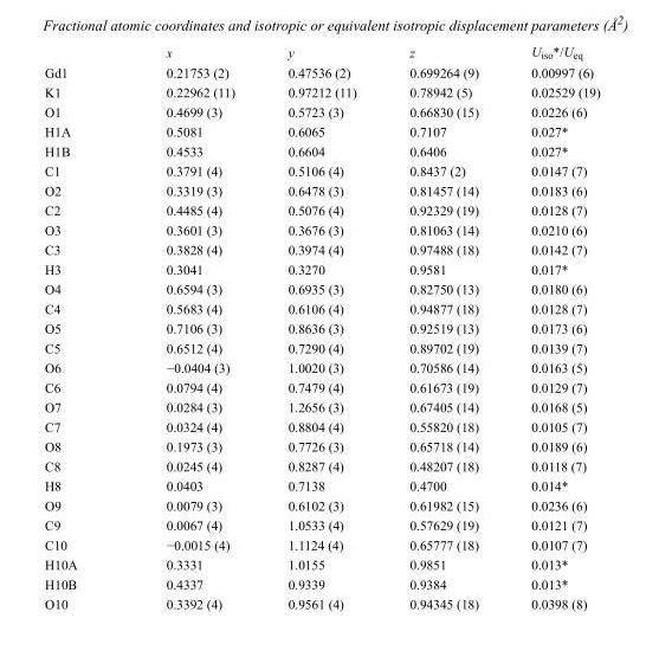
<table><thead><tr><td></td><td>x</td><td>y</td><td>z</td><td>U<sub>iso</sub>*/U<sub>eq</sub></td></tr></thead><tbody><tr><td>Gd1</td><td>0.21753 (2)</td><td>0.47536 (2)</td><td>0.699264 (9)</td><td>0.00997 (6)</td></tr><tr><td>K1</td><td>0.22962 (11)</td><td>0.97212 (11)</td><td>0.78942 (5)</td><td>0.02529 (19)</td></tr><tr><td>O1</td><td>0.4699 (3)</td><td>0.5723 (3)</td><td>0.66830 (15)</td><td>0.0226 (6)</td></tr><tr><td>H1A</td><td>0.5081</td><td>0.6065</td><td>0.7107</td><td>0.027*</td></tr><tr><td>H1B</td><td>0.4533</td><td>0.6604</td><td>0.6406</td><td>0.027*</td></tr><tr><td>C1</td><td>0.3791 (4)</td><td>0.5106 (4)</td><td>0.8437 (2)</td><td>0.0147 (7)</td></tr><tr><td>O2</td><td>0.3319 (3)</td><td>0.6478 (3)</td><td>0.81457 (14)</td><td>0.0183 (6)</td></tr><tr><td>C2</td><td>0.4485 (4)</td><td>0.5076 (4)</td><td>0.92329 (19)</td><td>0.0128 (7)</td></tr><tr><td>O3</td><td>0.3601 (3)</td><td>0.3676 (3)</td><td>0.81063 (14)</td><td>0.0210 (6)</td></tr><tr><td>C3</td><td>0.3828 (4)</td><td>0.3974 (4)</td><td>0.97488 (18)</td><td>0.0142 (7)</td></tr><tr><td>H3</td><td>0.3041</td><td>0.3270</td><td>0.9581</td><td>0.017*</td></tr><tr><td>O4</td><td>0.6594 (3)</td><td>0.6935 (3)</td><td>0.82750 (13)</td><td>0.0180 (6)</td></tr><tr><td>C4</td><td>0.5683 (4)</td><td>0.6106 (4)</td><td>0.94877 (18)</td><td>0.0128 (7)</td></tr><tr><td>O5</td><td>0.7106 (3)</td><td>0.8636 (3)</td><td>0.92519 (13)</td><td>0.0173 (6)</td></tr><tr><td>C5</td><td>0.6512 (4)</td><td>0.7290 (4)</td><td>0.89702 (19)</td><td>0.0139 (7)</td></tr><tr><td>O6</td><td>−0.0404 (3)</td><td>1.0020 (3)</td><td>0.70586 (14)</td><td>0.0163 (5)</td></tr><tr><td>C6</td><td>0.0794 (4)</td><td>0.7479 (4)</td><td>0.61673 (19)</td><td>0.0129 (7)</td></tr><tr><td>O7</td><td>0.0284 (3)</td><td>1.2656 (3)</td><td>0.67405 (14)</td><td>0.0168 (5)</td></tr><tr><td>C7</td><td>0.0324 (4)</td><td>0.8804 (4)</td><td>0.55820 (18)</td><td>0.0105 (7)</td></tr><tr><td>O8</td><td>0.1973 (3)</td><td>0.7726 (3)</td><td>0.65718 (14)</td><td>0.0189 (6)</td></tr><tr><td>C8</td><td>0.0245 (4)</td><td>0.8287 (4)</td><td>0.48207 (18)</td><td>0.0118 (7)</td></tr><tr><td>H8</td><td>0.0403</td><td>0.7138</td><td>0.4700</td><td>0.014*</td></tr><tr><td>O9</td><td>0.0079 (3)</td><td>0.6102 (3)</td><td>0.61982 (15)</td><td>0.0236 (6)</td></tr><tr><td>C9</td><td>0.0067 (4)</td><td>1.0533 (4)</td><td>0.57629 (19)</td><td>0.0121 (7)</td></tr><tr><td>C10</td><td>−0.0015 (4)</td><td>1.1124 (4)</td><td>0.65777 (18)</td><td>0.0107 (7)</td></tr><tr><td>H10A</td><td>0.3331</td><td>1.0155</td><td>0.9851</td><td>0.013*</td></tr><tr><td>H10B</td><td>0.4337</td><td>0.9339</td><td>0.9384</td><td>0.013*</td></tr><tr><td>O10</td><td>0.3392 (4)</td><td>0.9561 (4)</td><td>0.94345 (18)</td><td>0.0398 (8)</td></tr></tbody></table>